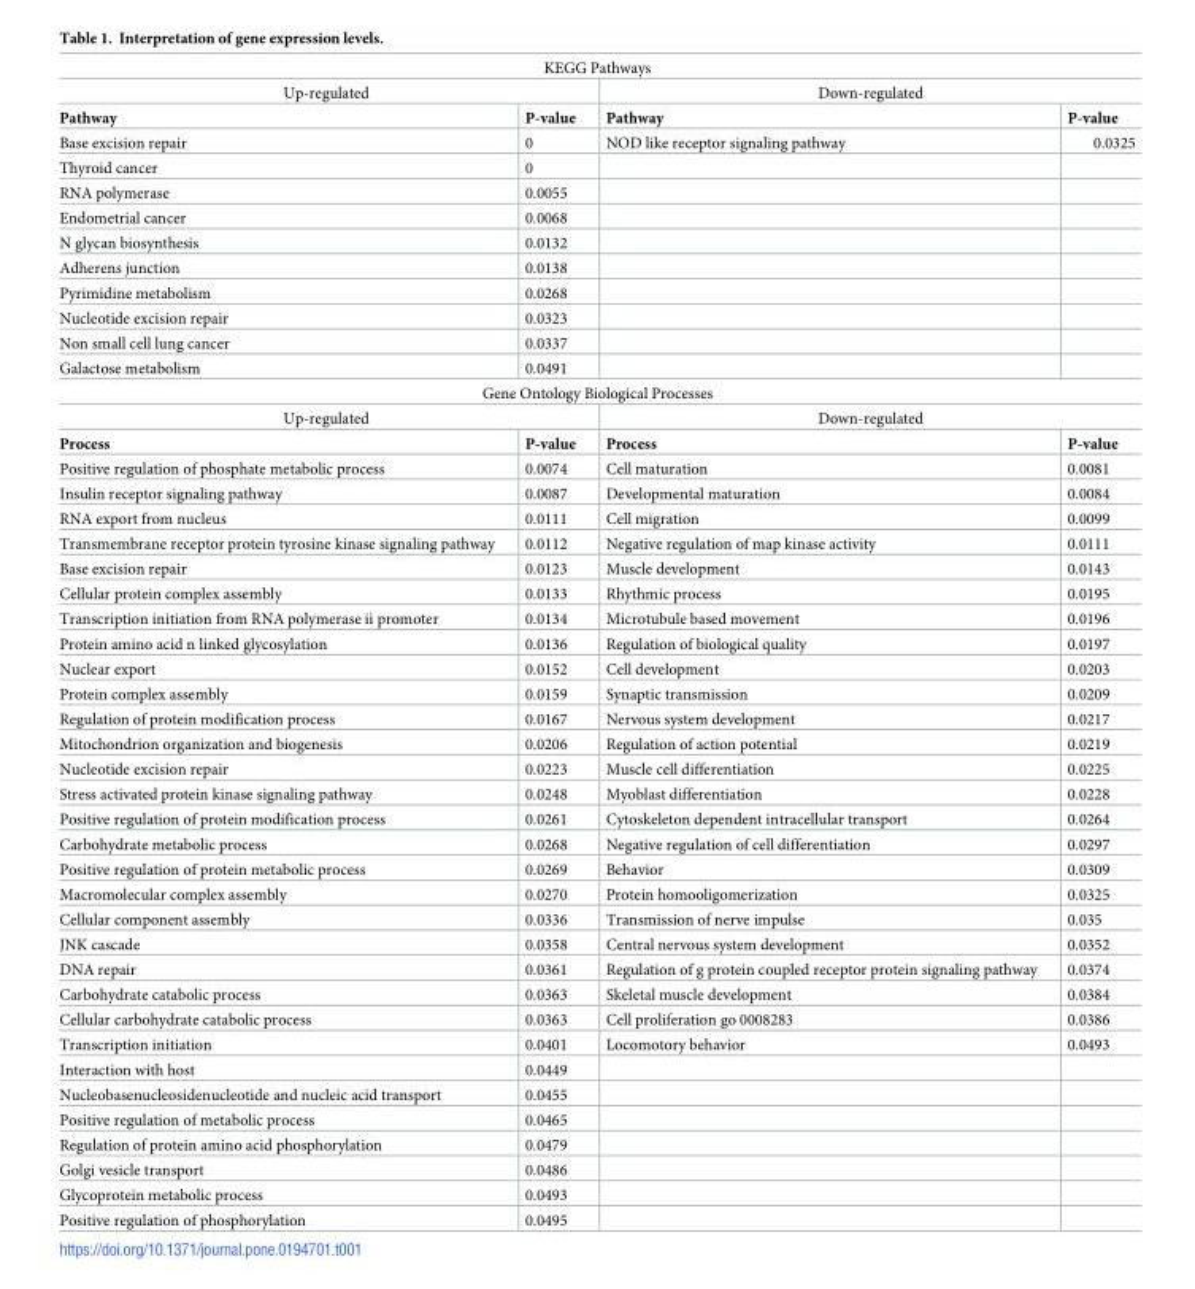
<table><tbody><tr><td colspan="4">KEGG Pathways</td></tr><tr><td colspan="2">Up-regulated</td><td colspan="2">Down-regulated</td></tr><tr><td>Pathway</td><td>P-value</td><td>Pathway</td><td>P-value</td></tr><tr><td>Base excision repair</td><td>0</td><td>NOD like receptor signaling pathway</td><td>0.0325</td></tr><tr><td>Thyroid cancer</td><td>0</td><td></td><td></td></tr><tr><td>RNA polymerase</td><td>0.0055</td><td></td><td></td></tr><tr><td>Endometrial cancer</td><td>0.0068</td><td></td><td></td></tr><tr><td>N glycan biosynthesis</td><td>0.0132</td><td></td><td></td></tr><tr><td>Adherens junction</td><td>0.0138</td><td></td><td></td></tr><tr><td>Pyrimidine metabolism</td><td>0.0268</td><td></td><td></td></tr><tr><td>Nucleotide excision repair</td><td>0.0323</td><td></td><td></td></tr><tr><td>Non small cell lung cancer</td><td>0.0337</td><td></td><td></td></tr><tr><td>Galactose metabolism</td><td>0.0491</td><td></td><td></td></tr><tr><td colspan="4">Gene Ontology Biological Processes</td></tr><tr><td colspan="2">Up-regulated</td><td colspan="2">Down-regulated</td></tr><tr><td>Process</td><td>P-value</td><td>Process</td><td>P-value</td></tr><tr><td>Positive regulation of phosphate metabolic process</td><td>0.0074</td><td>Cell maturation</td><td>0.0081</td></tr><tr><td>Insulin receptor signaling pathway</td><td>0.0087</td><td>Developmental maturation</td><td>0.0084</td></tr><tr><td>RNA export from nucleus</td><td>0.0111</td><td>Cell migration</td><td>0.0099</td></tr><tr><td>Transmembrane receptor protein tyrosine kinase signaling pathway</td><td>0.0112</td><td>Negative regulation of map kinase activity</td><td>0.0111</td></tr><tr><td>Base excision repair</td><td>0.0123</td><td>Muscle development</td><td>0.0143</td></tr><tr><td>Cellular protein complex assembly</td><td>0.0133</td><td>Rhythmic process</td><td>0.0195</td></tr><tr><td>Transcription initiation from RNA polymerase ii promoter</td><td>0.0134</td><td>Microtubule based movement</td><td>0.0196</td></tr><tr><td>Protein amino acid n linked glycosylation</td><td>0.0136</td><td>Regulation of biological quality</td><td>0.0197</td></tr><tr><td>Nuclear export</td><td>0.0152</td><td>Cell development</td><td>0.0203</td></tr><tr><td>Protein complex assembly</td><td>0.0159</td><td>Synaptic transmission</td><td>0.0209</td></tr><tr><td>Regulation of protein modification process</td><td>0.0167</td><td>Nervous system development</td><td>0.0217</td></tr><tr><td>Mitochondrion organization and biogenesis</td><td>0.0206</td><td>Regulation of action potential</td><td>0.0219</td></tr><tr><td>Nucleotide excision repair</td><td>0.0223</td><td>Muscle cell differentiation</td><td>0.0225</td></tr><tr><td>Stress activated protein kinase signaling pathway</td><td>0.0248</td><td>Myoblast differentiation</td><td>0.0228</td></tr><tr><td>Positive regulation of protein modification process</td><td>0.0261</td><td>Cytoskeleton dependent intracellular transport</td><td>0.0264</td></tr><tr><td>Carbohydrate metabolic process</td><td>0.0268</td><td>Negative regulation of cell differentiation</td><td>0.0297</td></tr><tr><td>Positive regulation of protein metabolic process</td><td>0.0269</td><td>Behavior</td><td>0.0309</td></tr><tr><td>Macromolecular complex assembly</td><td>0.0270</td><td>Protein homooligomerization</td><td>0.0325</td></tr><tr><td>Cellular component assembly</td><td>0.0336</td><td>Transmission of nerve impulse</td><td>0.035</td></tr><tr><td>JNK cascade</td><td>0.0358</td><td>Central nervous system development</td><td>0.0352</td></tr><tr><td>DNA repair</td><td>0.0361</td><td>Regulation of g protein coupled receptor protein signaling pathway</td><td>0.0374</td></tr><tr><td>Carbohydrate catabolic process</td><td>0.0363</td><td>Skeletal muscle development</td><td>0.0384</td></tr><tr><td>Cellular carbohydrate catabolic process</td><td>0.0363</td><td>Cell proliferation go 0008283</td><td>0.0386</td></tr><tr><td>Transcription initiation</td><td>0.0401</td><td>Locomotory behavior</td><td>0.0493</td></tr><tr><td>Interaction with host</td><td>0.0449</td><td></td><td></td></tr><tr><td>Nucleobasenucleosidenucleotide and nucleic acid transport</td><td>0.0455</td><td></td><td></td></tr><tr><td>Positive regulation of metabolic process</td><td>0.0465</td><td></td><td></td></tr><tr><td>Regulation of protein amino acid phosphorylation</td><td>0.0479</td><td></td><td></td></tr><tr><td>Golgi vesicle transport</td><td>0.0486</td><td></td><td></td></tr><tr><td>Glycoprotein metabolic process</td><td>0.0493</td><td></td><td></td></tr><tr><td>Positive regulation of phosphorylation</td><td>0.0495</td><td></td><td></td></tr></tbody></table>